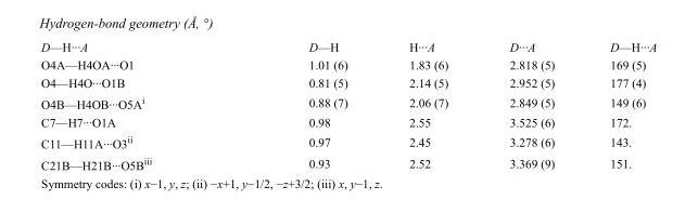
<table><tbody><tr><td>D—H···A</td><td>D—H</td><td>H···A</td><td>D···A</td><td>D—H···A</td></tr><tr><td>O4A—H4OA···O1</td><td>1.01 (6)</td><td>1.83 (6)</td><td>2.818 (5)</td><td>169 (5)</td></tr><tr><td>O4—H4O···O1B</td><td>0.81 (5)</td><td>2.14 (5)</td><td>2.952 (5)</td><td>177 (4)</td></tr><tr><td>O4B—H4OB···O5A<sup>i</sup></td><td>0.88 (7)</td><td>2.06 (7)</td><td>2.849 (5)</td><td>149 (6)</td></tr><tr><td>C7—H7···O1A</td><td>0.98</td><td>2.55</td><td>3.525 (6)</td><td>172.</td></tr><tr><td>C11—H11A···O3<sup>ii</sup></td><td>0.97</td><td>2.45</td><td>3.278 (6)</td><td>143.</td></tr><tr><td>C21B—H21B···O5B<sup>iii</sup></td><td>0.93</td><td>2.52</td><td>3.369 (9)</td><td>151.</td></tr></tbody></table>